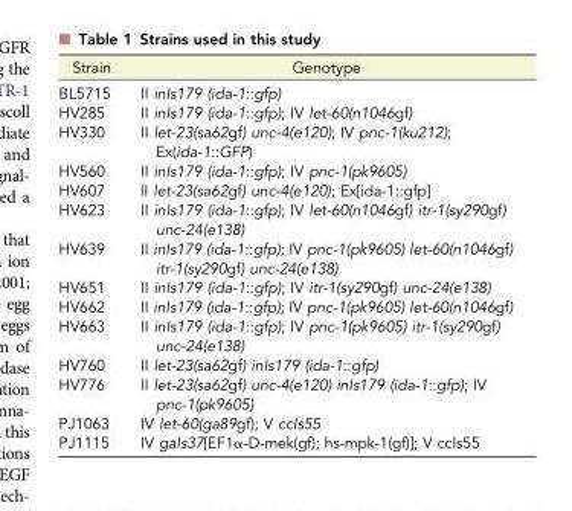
<table><thead><tr><td>Strain</td><td>Genotype</td></tr></thead><tbody><tr><td>BL5715</td><td>II inIs179 (ida-1::gfp)</td></tr><tr><td>HV285</td><td>II inIs179 (ida-1::gfp); IV let-60(n1046gf)</td></tr><tr><td>HV330</td><td>II let-23(sa62gf) unc-4(e120); IV pnc-1(ku212); Ex(ida-1::GFP)</td></tr><tr><td>HV560</td><td>II inIs179 (ida-1::gfp); IV pnc-1(pk9605)</td></tr><tr><td>HV607</td><td>lI let-23(sa62gf) unc-4(e120); Ex[ida-1::gfp]</td></tr><tr><td>HV623</td><td>II inIs179 (ida-1::gfp); IV let-60(n1046gf) itr-1(sy290gf) unc-24(e138)</td></tr><tr><td>HV639</td><td>II inIs179 (ida-1::gfp); IV pnc-1(pk9605) let-60(n1046gf) itr-1(sy290gf) unc-24(e138)</td></tr><tr><td>HV651</td><td>II inIs179 (ida-1::gfp); IV itr-1(sy290gf) unc-24(e138)</td></tr><tr><td>HV662</td><td>II inIs179 (ida-1::gfp); IV pnc-1(pk9605) let-60(n1046gf)</td></tr><tr><td>HV663</td><td>II inIs179 (ida-1::gfp); IV pnc-1(pk9605) itr-1(sy290gf) unc-24(e138)</td></tr><tr><td>HV760</td><td>II let-23(sa62gf) inIs179 (ida-1::gfp)</td></tr><tr><td>HV776</td><td>II let-23(sa62gf) unc-4(e120) inIs179 (ida-1::gfp); IV pnc-1(pk9605)</td></tr><tr><td>PJ1063</td><td>IV let-60(ga89gf); V ccIs55</td></tr><tr><td>PJ1115</td><td>IV gaIs37[EF1α-D-mek(gf); hs-mpk-1(gf)]; V ccIs55</td></tr></tbody></table>